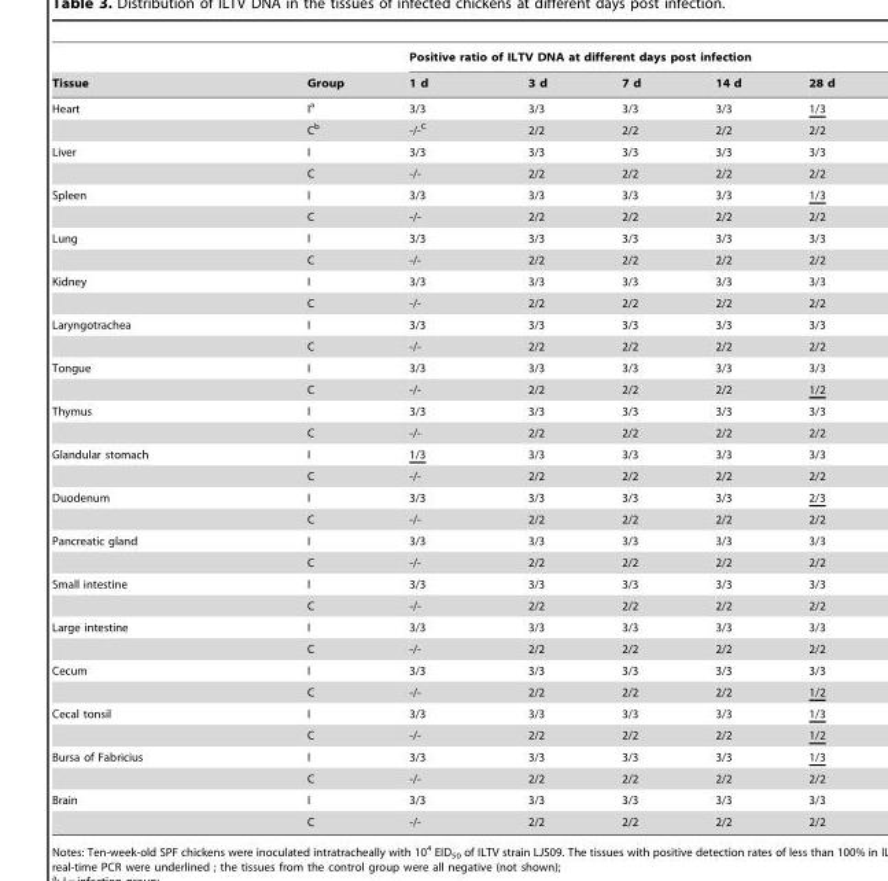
<table><thead><tr><td rowspan="2">Tissue</td><td rowspan="2">Group</td><td colspan="5">Positive ratio of ILTV DNA at different days post infection</td></tr><tr><td>1 d</td><td>3 d</td><td>7 d</td><td>14 d</td><td>28 d</td></tr></thead><tbody><tr><td rowspan="2">Heart</td><td>I<sup>a</sup></td><td>3/3</td><td>3/3</td><td>3/3</td><td>3/3</td><td>1/3</td></tr><tr><td>C<sup>b</sup></td><td>-/-C</td><td>2/2</td><td>2/2</td><td>2/2</td><td>2/2</td></tr><tr><td rowspan="2">Liver</td><td>I</td><td>3/3</td><td>3/3</td><td>3/3</td><td>3/3</td><td>3/3</td></tr><tr><td>C</td><td>-/-</td><td>2/2</td><td>2/2</td><td>2/2</td><td>2/2</td></tr><tr><td rowspan="2">Spleen</td><td>I</td><td>3/3</td><td>3/3</td><td>3/3</td><td>3/3</td><td>1/3</td></tr><tr><td>C</td><td>-/-</td><td>2/2</td><td>2/2</td><td>2/2</td><td>2/2</td></tr><tr><td rowspan="2">Lung</td><td>I</td><td>3/3</td><td>3/3</td><td>3/3</td><td>3/3</td><td>3/3</td></tr><tr><td>C</td><td>-/-</td><td>2/2</td><td>2/2</td><td>2/2</td><td>2/2</td></tr><tr><td rowspan="2">Kidney</td><td>I</td><td>3/3</td><td>3/3</td><td>3/3</td><td>3/3</td><td>3/3</td></tr><tr><td>C</td><td>-/-</td><td>2/2</td><td>2/2</td><td>2/2</td><td>2/2</td></tr><tr><td rowspan="2">Laryngotrachea</td><td>I</td><td>3/3</td><td>3/3</td><td>3/3</td><td>3/3</td><td>3/3</td></tr><tr><td>C</td><td>-/-</td><td>2/2</td><td>2/2</td><td>2/2</td><td>2/2</td></tr><tr><td rowspan="2">Tongue</td><td>I</td><td>3/3</td><td>3/3</td><td>3/3</td><td>3/3</td><td>3/3</td></tr><tr><td>C</td><td>-/-</td><td>2/2</td><td>2/2</td><td>2/2</td><td>1/2</td></tr><tr><td rowspan="2">Thymus</td><td>I</td><td>3/3</td><td>3/3</td><td>3/3</td><td>3/3</td><td>3/3</td></tr><tr><td>C</td><td>-/-</td><td>2/2</td><td>2/2</td><td>2/2</td><td>2/2</td></tr><tr><td rowspan="2">Glandular stomach</td><td>I</td><td>1/3</td><td>3/3</td><td>3/3</td><td>3/3</td><td>3/3</td></tr><tr><td>C</td><td>-/-</td><td>2/2</td><td>2/2</td><td>2/2</td><td>2/2</td></tr><tr><td rowspan="2">Duodenum</td><td>I</td><td>3/3</td><td>3/3</td><td>3/3</td><td>3/3</td><td>2/3</td></tr><tr><td>C</td><td>-/-</td><td>2/2</td><td>2/2</td><td>2/2</td><td>2/2</td></tr><tr><td rowspan="2">Pancreatic gland</td><td>I</td><td>3/3</td><td>3/3</td><td>3/3</td><td>3/3</td><td>3/3</td></tr><tr><td>C</td><td>-/-</td><td>2/2</td><td>2/2</td><td>2/2</td><td>2/2</td></tr><tr><td rowspan="2">Small intestine</td><td>I</td><td>3/3</td><td>3/3</td><td>3/3</td><td>3/3</td><td>3/3</td></tr><tr><td>C</td><td>-/-</td><td>2/2</td><td>2/2</td><td>2/2</td><td>2/2</td></tr><tr><td rowspan="2">Large intestine</td><td>I</td><td>3/3</td><td>3/3</td><td>3/3</td><td>3/3</td><td>3/3</td></tr><tr><td>C</td><td>-/-</td><td>2/2</td><td>2/2</td><td>2/2</td><td>2/2</td></tr><tr><td rowspan="2">Cecum</td><td>I</td><td>3/3</td><td>3/3</td><td>3/3</td><td>3/3</td><td>3/3</td></tr><tr><td>C</td><td>-/-</td><td>2/2</td><td>2/2</td><td>2/2</td><td>1/2</td></tr><tr><td rowspan="2">Cecal tonsil</td><td>I</td><td>3/3</td><td>3/3</td><td>3/3</td><td>3/3</td><td>1/3</td></tr><tr><td>C</td><td>-/-</td><td>2/2</td><td>2/2</td><td>2/2</td><td>1/2</td></tr><tr><td rowspan="2">Bursa of Fabricius</td><td>I</td><td>3/3</td><td>3/3</td><td>3/3</td><td>3/3</td><td>1/3</td></tr><tr><td>C</td><td>-/-</td><td>2/2</td><td>2/2</td><td>2/2</td><td>2/2</td></tr><tr><td rowspan="2">Brain</td><td>I</td><td>3/3</td><td>3/3</td><td>3/3</td><td>3/3</td><td>3/3</td></tr><tr><td>C</td><td>-/-</td><td>2/2</td><td>2/2</td><td>2/2</td><td>2/2</td></tr></tbody></table>